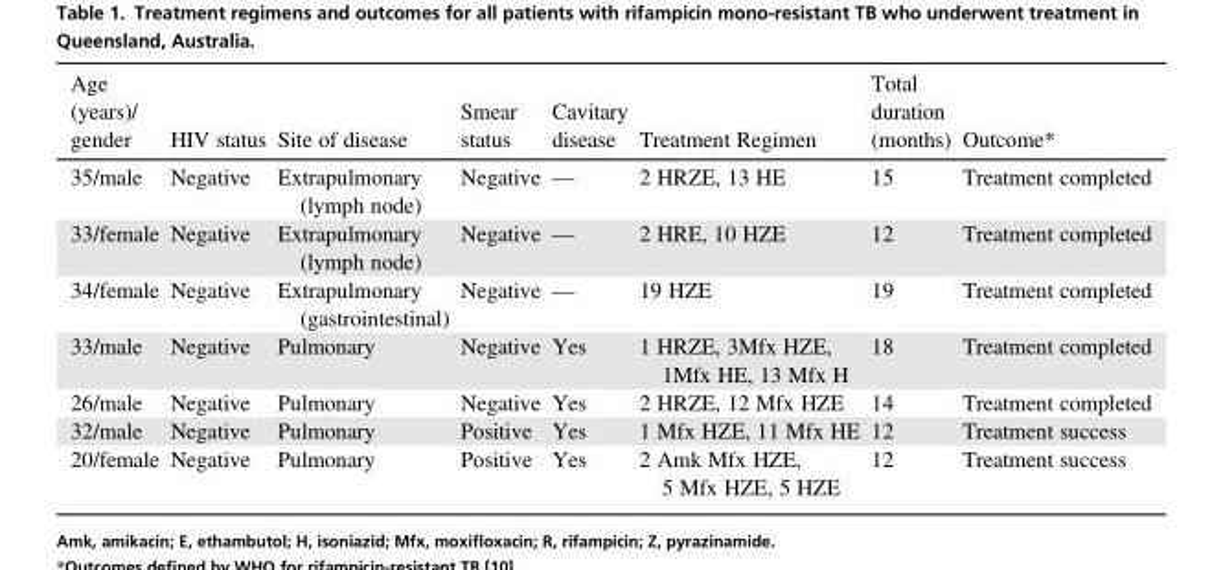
<table><thead><tr><td>Age (years)/ gender</td><td>HIV status</td><td>Site of disease</td><td>Smear status</td><td>Cavitary disease</td><td>Treatment Regimen</td><td>Total duration (months)</td><td>Outcome*</td></tr></thead><tbody><tr><td>35/male</td><td>Negative</td><td>Extrapulmonary (lymph node)</td><td>Negative</td><td>—</td><td>2 HRZE, 13 HE</td><td>15</td><td>Treatment completed</td></tr><tr><td>33/female</td><td>Negative</td><td>Extrapulmonary (lymph node)</td><td>Negative</td><td>—</td><td>2 HRE, 10 HZE</td><td>12</td><td>Treatment completed</td></tr><tr><td>34/female</td><td>Negative</td><td>Extrapulmonary (gastrointestinal)</td><td>Negative</td><td>—</td><td>19 HZE</td><td>19</td><td>Treatment completed</td></tr><tr><td>33/male</td><td>Negative</td><td>Pulmonary</td><td>Negative</td><td>Yes</td><td>1 HRZE, 3Mfx HZE, 1Mfx HE, 13 Mfx H</td><td>18</td><td>Treatment completed</td></tr><tr><td>26/male</td><td>Negative</td><td>Pulmonary</td><td>Negative</td><td>Yes</td><td>2 HRZE, 12 Mfx HZE</td><td>14</td><td>Treatment completed</td></tr><tr><td>32/male</td><td>Negative</td><td>Pulmonary</td><td>Positive</td><td>Yes</td><td>1 Mfx HZE, 11 Mfx HE</td><td>12</td><td>Treatment success</td></tr><tr><td>20/female</td><td>Negative</td><td>Pulmonary</td><td>Positive</td><td>Yes</td><td>2 Amk Mfx HZE, 5 Mfx HZE, 5 HZE</td><td>12</td><td>Treatment success</td></tr></tbody></table>